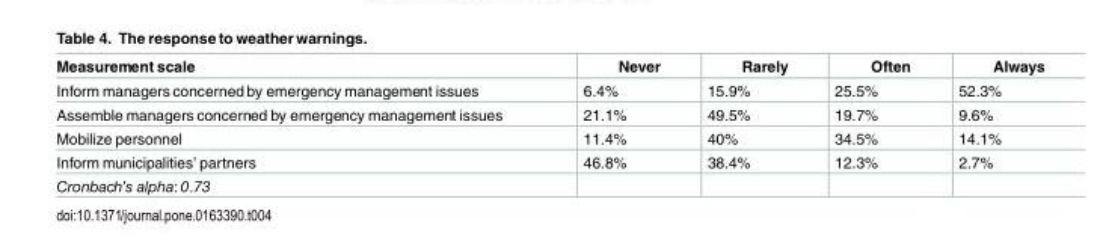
<table><thead><tr><td>Measurement scale</td><td>Never</td><td>Rarely</td><td>Often</td><td>Always</td></tr></thead><tbody><tr><td>Inform managers concerned by emergency management issues</td><td>6.4%</td><td>15.9%</td><td>25.5%</td><td>52.3%</td></tr><tr><td>Assemble managers concerned by emergency management issues</td><td>21.1%</td><td>49.5%</td><td>19.7%</td><td>9.6%</td></tr><tr><td>Mobilize personnel</td><td>11.4%</td><td>40%</td><td>34.5%</td><td>14.1%</td></tr><tr><td>Inform municipalities’ partners</td><td>46.8%</td><td>38.4%</td><td>12.3%</td><td>2.7%</td></tr><tr><td>Cronbach’s alpha: 0.73</td><td></td><td></td><td></td><td></td></tr></tbody></table>